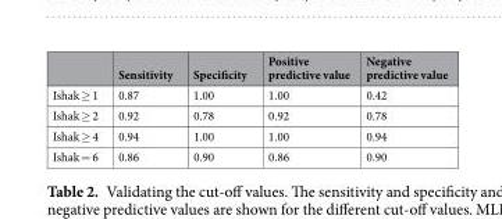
<table><thead><tr><td></td><td>Sensitivity</td><td>Specificity</td><td>Positive predictive value</td><td>Negative predictive value</td></tr></thead><tbody><tr><td>Ishak ≥ 1</td><td>0.87</td><td>1.00</td><td>1.00</td><td>0.42</td></tr><tr><td>Ishak ≥ 2</td><td>0.92</td><td>0.78</td><td>0.92</td><td>0.78</td></tr><tr><td>Ishak ≥ 4</td><td>0.94</td><td>1.00</td><td>1.00</td><td>0.94</td></tr><tr><td>Ishak = 6</td><td>0.86</td><td>0.90</td><td>0.86</td><td>0.90</td></tr></tbody></table>